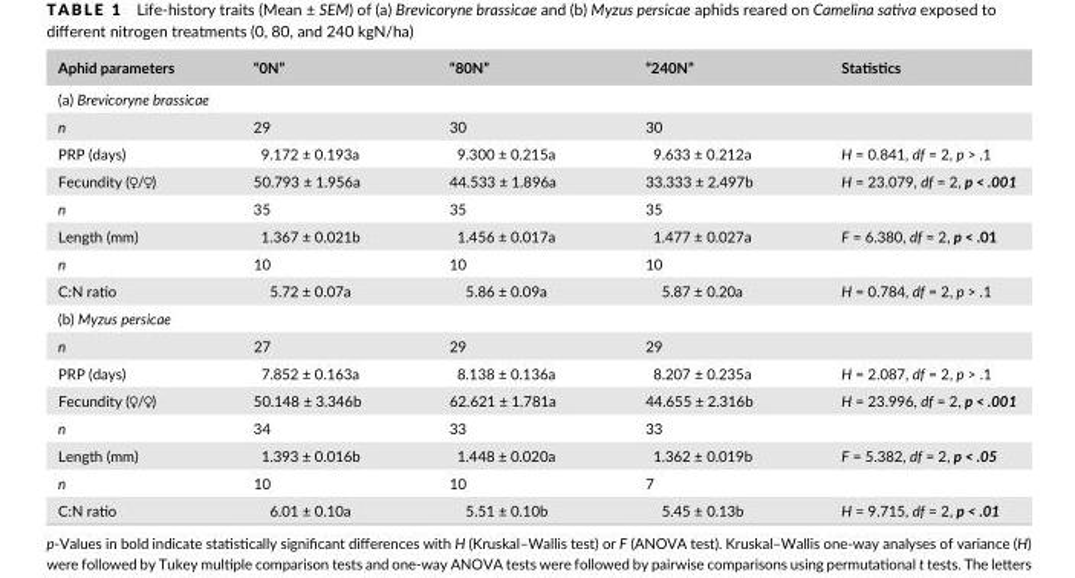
<table><thead><tr><td>Aphid parameters</td><td>“0N”</td><td>“80N”</td><td>“240N”</td><td>Statistics</td></tr></thead><tbody><tr><td colspan="5">(a) Brevicoryne brassicae</td></tr><tr><td>n</td><td>29</td><td>30</td><td>30</td><td></td></tr><tr><td>PRP (days)</td><td>9.172 ± 0.193a</td><td>9.300 ± 0.215a</td><td>9.633 ± 0.212a</td><td>H = 0.841, df = 2, p &gt; .1</td></tr><tr><td>Fecundity ( / )</td><td>50.793 ± 1.956a</td><td>44.533 ± 1.896a</td><td>33.333 ± 2.497b</td><td>H = 23.079, df = 2, p &lt; .001</td></tr><tr><td>n</td><td>35</td><td>35</td><td>35</td><td></td></tr><tr><td>Length (mm)</td><td>1.367 ± 0.021b</td><td>1.456 ± 0.017a</td><td>1.477 ± 0.027a</td><td>F = 6.380, df = 2, p &lt; .01</td></tr><tr><td>n</td><td>10</td><td>10</td><td>10</td><td></td></tr><tr><td>C:N ratio</td><td>5.72 ± 0.07a</td><td>5.86 ± 0.09a</td><td>5.87 ± 0.20a</td><td>H = 0.784, df = 2, p &gt; .1</td></tr><tr><td colspan="5">(b) Myzus persicae</td></tr><tr><td>n</td><td>27</td><td>29</td><td>29</td><td></td></tr><tr><td>PRP (days)</td><td>7.852 ± 0.163a</td><td>8.138 ± 0.136a</td><td>8.207 ± 0.235a</td><td>H = 2.087, df = 2, p &gt; .1</td></tr><tr><td>Fecundity ( / )</td><td>50.148 ± 3.346b</td><td>62.621 ± 1.781a</td><td>44.655 ± 2.316b</td><td>H = 23.996, df = 2, p &lt; .001</td></tr><tr><td>n</td><td>34</td><td>33</td><td>33</td><td></td></tr><tr><td>Length (mm)</td><td>1.393 ± 0.016b</td><td>1.448 ± 0.020a</td><td>1.362 ± 0.019b</td><td>F = 5.382, df = 2, p &lt; .05</td></tr><tr><td>n</td><td>10</td><td>10</td><td>7</td><td></td></tr><tr><td>C:N ratio</td><td>6.01 ± 0.10a</td><td>5.51 ± 0.10b</td><td>5.45 ± 0.13b</td><td>H = 9.715, df = 2, p &lt; .01</td></tr></tbody></table>